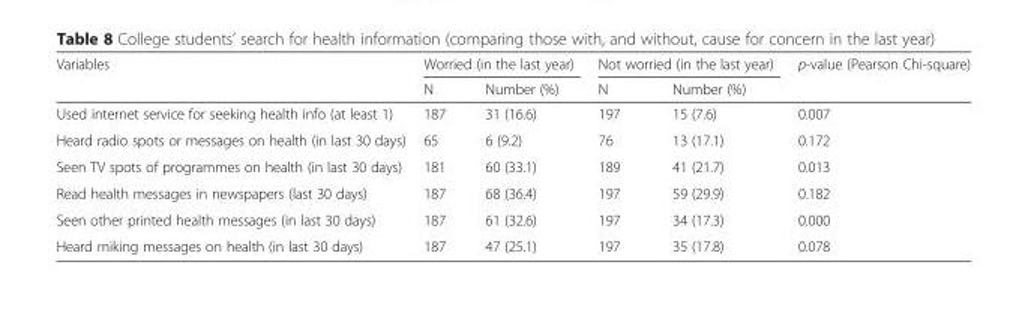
<table><thead><tr><td rowspan="2">Variables</td><td colspan="2">Worried (in the last year)</td><td colspan="2">Not worried (in the last year)</td><td rowspan="2">p-value (Pearson Chi-square)</td></tr><tr><td>N</td><td>Number (%)</td><td>N</td><td>Number (%)</td></tr></thead><tbody><tr><td>Used internet service for seeking health info (at least 1)</td><td>187</td><td>31 (16.6)</td><td>197</td><td>15 (7.6)</td><td>0.007</td></tr><tr><td>Heard radio spots or messages on health (in last 30 days)</td><td>65</td><td>6 (9.2)</td><td>76</td><td>13 (17.1)</td><td>0.172</td></tr><tr><td>Seen TV spots of programmes on health (in last 30 days)</td><td>181</td><td>60 (33.1)</td><td>189</td><td>41 (21.7)</td><td>0.013</td></tr><tr><td>Read health messages in newspapers (last 30 days)</td><td>187</td><td>68 (36.4)</td><td>197</td><td>59 (29.9)</td><td>0.182</td></tr><tr><td>Seen other printed health messages (in last 30 days)</td><td>187</td><td>61 (32.6)</td><td>197</td><td>34 (17.3)</td><td>0.000</td></tr><tr><td>Heard miking messages on health (in last 30 days)</td><td>187</td><td>47 (25.1)</td><td>197</td><td>35 (17.8)</td><td>0.078</td></tr></tbody></table>